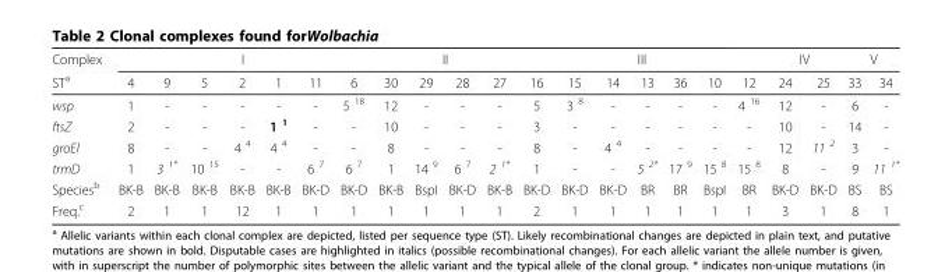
<table><thead><tr><td rowspan="2">Complex ST<sup>a</sup></td><td colspan="7">I</td><td colspan="4">II</td><td colspan="7">III</td><td colspan="2">IV</td><td colspan="2">V</td></tr><tr><td>4</td><td>9</td><td>5</td><td>2</td><td>1</td><td>11</td><td>6</td><td>30</td><td>29</td><td>28</td><td>27</td><td>16</td><td>15</td><td>14</td><td>13</td><td>36</td><td>10</td><td>12</td><td>24</td><td>25</td><td>33</td><td>34</td></tr></thead><tbody><tr><td>wsp</td><td>1</td><td>-</td><td>-</td><td>-</td><td>-</td><td>-</td><td>5 <sup>18</sup></td><td>12</td><td>-</td><td>-</td><td>-</td><td>5</td><td>3 <sup>8</sup></td><td>-</td><td>-</td><td>-</td><td>-</td><td>4 <sup>16</sup></td><td>12</td><td>-</td><td>6</td><td>-</td></tr><tr><td>ftsZ</td><td>2</td><td>-</td><td>-</td><td>-</td><td>1 <sup>1</sup></td><td>-</td><td>-</td><td>10</td><td>-</td><td>-</td><td>-</td><td>3</td><td>-</td><td>-</td><td>-</td><td>-</td><td>-</td><td>-</td><td>10</td><td>-</td><td>14</td><td>-</td></tr><tr><td>groEl</td><td>8</td><td>-</td><td>-</td><td>4 <sup>4</sup></td><td>4 <sup>4</sup></td><td>-</td><td>-</td><td>8</td><td>-</td><td>-</td><td>-</td><td>8</td><td>-</td><td>4 <sup>4</sup></td><td>-</td><td>-</td><td>-</td><td>-</td><td>12</td><td>11 <sup>2</sup></td><td>3</td><td>-</td></tr><tr><td>trmD</td><td>1</td><td>3 <sup>1*</sup></td><td>10 <sup>15</sup></td><td>-</td><td>-</td><td>6 <sup>7</sup></td><td>6 <sup>7</sup></td><td>1</td><td>14 <sup>9</sup></td><td>6 <sup>7</sup></td><td>2 <sup>1*</sup></td><td>1</td><td>-</td><td>-</td><td>5 <sup>2*</sup></td><td>17 <sup>9</sup></td><td>15 <sup>8</sup></td><td>15 <sup>8</sup></td><td>8</td><td>-</td><td>9</td><td>11 <sup>1*</sup></td></tr><tr><td>Species<sup>b</sup></td><td>BK-B</td><td>BK-B</td><td>BK-B</td><td>BK-B</td><td>BK-B</td><td>BK-D</td><td>BK-D</td><td>BK-B</td><td>BspI</td><td>BK-D</td><td>BK-B</td><td>BK-D</td><td>BK-D</td><td>BK-D</td><td>BR</td><td>BR</td><td>BspI</td><td>BR</td><td>BK-D</td><td>BK-D</td><td>BS</td><td>BS</td></tr><tr><td>Freq.<sup>c</sup></td><td>2</td><td>1</td><td>1</td><td>12</td><td>1</td><td>1</td><td>1</td><td>1</td><td>1</td><td>1</td><td>1</td><td>2</td><td>1</td><td>1</td><td>1</td><td>1</td><td>1</td><td>1</td><td>3</td><td>1</td><td>8</td><td>1</td></tr></tbody></table>